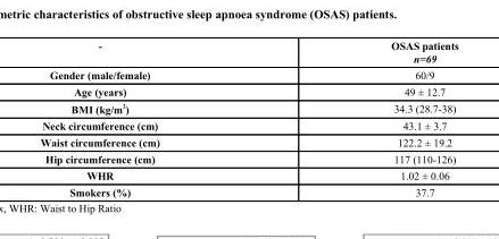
<table><thead><tr><td>-</td><td>OSAS patients n=69</td></tr></thead><tbody><tr><td>Gender (male/female)</td><td>60/9</td></tr><tr><td>Age (years)</td><td>49 ± 12.7</td></tr><tr><td>BMI (kg/m <sup>2</sup>)</td><td>34.3 (28.7-38)</td></tr><tr><td>Neck circumference (cm)</td><td>43.1 ± 3.7</td></tr><tr><td>Waist circumference (cm)</td><td>122.2 ± 19.2</td></tr><tr><td>Hip circumference (cm)</td><td>117 (110-126)</td></tr><tr><td>WHR</td><td>1.02 ± 0.06</td></tr><tr><td>Smokers (%)</td><td>37.7</td></tr></tbody></table>